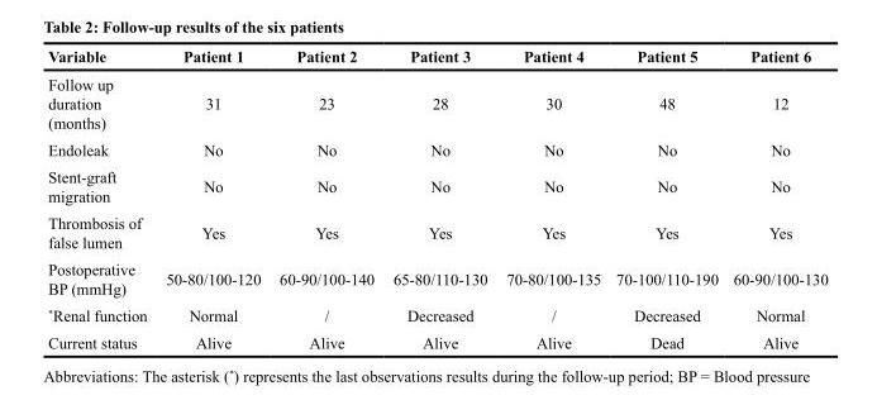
<table><thead><tr><td>Variable</td><td>Patient 1</td><td>Patient 2</td><td>Patient 3</td><td>Patient 4</td><td>Patient 5</td><td>Patient 6</td></tr></thead><tbody><tr><td>Follow up duration (months)</td><td>31</td><td>23</td><td>28</td><td>30</td><td>48</td><td>12</td></tr><tr><td>Endoleak</td><td>No</td><td>No</td><td>No</td><td>No</td><td>No</td><td>No</td></tr><tr><td>Stent-graft migration</td><td>No</td><td>No</td><td>No</td><td>No</td><td>No</td><td>No</td></tr><tr><td>Thrombosis of false lumen</td><td>Yes</td><td>Yes</td><td>Yes</td><td>Yes</td><td>Yes</td><td>Yes</td></tr><tr><td>Postoperative BP (mmHg)</td><td>50-80/100-120</td><td>60-90/100-140</td><td>65-80/110-130</td><td>70-80/100-135</td><td>70-100/110-190</td><td>60-90/100-130</td></tr><tr><td>*Renal function</td><td>Normal</td><td>/</td><td>Decreased</td><td>/</td><td>Decreased</td><td>Normal</td></tr><tr><td>Current status</td><td>Alive</td><td>Alive</td><td>Alive</td><td>Alive</td><td>Dead</td><td>Alive</td></tr></tbody></table>